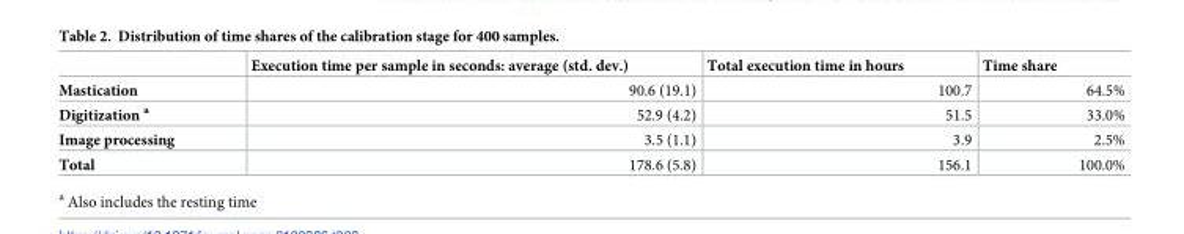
<table><thead><tr><td></td><td>Execution time per sample in seconds: average (std. dev.)</td><td>Total execution time in hours</td><td>Time share</td></tr></thead><tbody><tr><td>Mastication</td><td>90.6 (19.1)</td><td>100.7</td><td>64.5%</td></tr><tr><td>Digitization <sup>a</sup></td><td>52.9 (4.2)</td><td>51.5</td><td>33.0%</td></tr><tr><td>Image processing</td><td>3.5 (1.1)</td><td>3.9</td><td>2.5%</td></tr><tr><td>Total</td><td>178.6 (5.8)</td><td>156.1</td><td>100.0%</td></tr></tbody></table>